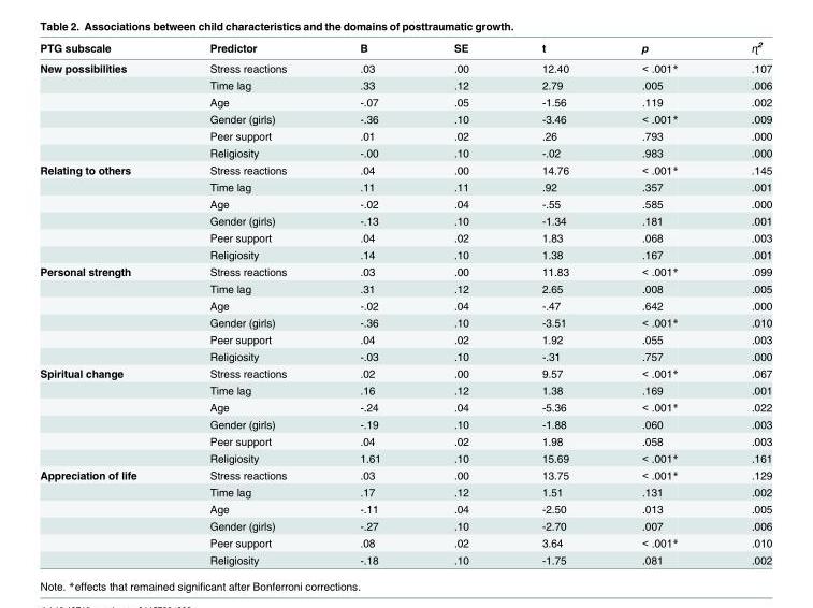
<table><thead><tr><td>PTG subscale</td><td>Predictor</td><td>B</td><td>SE</td><td>t</td><td>p</td><td>ɳ<sup>2</sup></td></tr></thead><tbody><tr><td rowspan="6">New possibilities</td><td>Stress reactions</td><td>.03</td><td>.00</td><td>12.40</td><td>&lt; .001*</td><td>.107</td></tr><tr><td>Time lag</td><td>.33</td><td>.12</td><td>2.79</td><td>.005</td><td>.006</td></tr><tr><td>Age</td><td>-.07</td><td>.05</td><td>-1.56</td><td>.119</td><td>.002</td></tr><tr><td>Gender (girls)</td><td>-.36</td><td>.10</td><td>-3.46</td><td>&lt; .001*</td><td>.009</td></tr><tr><td>Peer support</td><td>.01</td><td>.02</td><td>.26</td><td>.793</td><td>.000</td></tr><tr><td>Religiosity</td><td>-.00</td><td>.10</td><td>-.02</td><td>.983</td><td>.000</td></tr><tr><td rowspan="6">Relating to others</td><td>Stress reactions</td><td>.04</td><td>.00</td><td>14.76</td><td>&lt; .001*</td><td>.145</td></tr><tr><td>Time lag</td><td>.11</td><td>.11</td><td>.92</td><td>.357</td><td>.001</td></tr><tr><td>Age</td><td>-.02</td><td>.04</td><td>-.55</td><td>.585</td><td>.000</td></tr><tr><td>Gender (girls)</td><td>-.13</td><td>.10</td><td>-1.34</td><td>.181</td><td>.001</td></tr><tr><td>Peer support</td><td>.04</td><td>.02</td><td>1.83</td><td>.068</td><td>.003</td></tr><tr><td>Religiosity</td><td>.14</td><td>.10</td><td>1.38</td><td>.167</td><td>.001</td></tr><tr><td rowspan="6">Personal strength</td><td>Stress reactions</td><td>.03</td><td>.00</td><td>11.83</td><td>&lt; .001*</td><td>.099</td></tr><tr><td>Time lag</td><td>.31</td><td>.12</td><td>2.65</td><td>.008</td><td>.005</td></tr><tr><td>Age</td><td>-.02</td><td>.04</td><td>-.47</td><td>.642</td><td>.000</td></tr><tr><td>Gender (girls)</td><td>-.36</td><td>.10</td><td>-3.51</td><td>&lt; .001*</td><td>.010</td></tr><tr><td>Peer support</td><td>.04</td><td>.02</td><td>1.92</td><td>.055</td><td>.003</td></tr><tr><td>Religiosity</td><td>-.03</td><td>.10</td><td>-.31</td><td>.757</td><td>.000</td></tr><tr><td rowspan="6">Spiritual change</td><td>Stress reactions</td><td>.02</td><td>.00</td><td>9.57</td><td>&lt; .001*</td><td>.067</td></tr><tr><td>Time lag</td><td>.16</td><td>.12</td><td>1.38</td><td>.169</td><td>.001</td></tr><tr><td>Age</td><td>-.24</td><td>.04</td><td>-5.36</td><td>&lt; .001*</td><td>.022</td></tr><tr><td>Gender (girls)</td><td>-.19</td><td>.10</td><td>-1.88</td><td>.060</td><td>.003</td></tr><tr><td>Peer support</td><td>.04</td><td>.02</td><td>1.98</td><td>.058</td><td>.003</td></tr><tr><td>Religiosity</td><td>1.61</td><td>.10</td><td>15.69</td><td>&lt; .001*</td><td>.161</td></tr><tr><td rowspan="6">Appreciation of life</td><td>Stress reactions</td><td>.03</td><td>.00</td><td>13.75</td><td>&lt; .001*</td><td>.129</td></tr><tr><td>Time lag</td><td>.17</td><td>.12</td><td>1.51</td><td>.131</td><td>.002</td></tr><tr><td>Age</td><td>-.11</td><td>.04</td><td>-2.50</td><td>.013</td><td>.005</td></tr><tr><td>Gender (girls)</td><td>-.27</td><td>.10</td><td>-2.70</td><td>.007</td><td>.006</td></tr><tr><td>Peer support</td><td>.08</td><td>.02</td><td>3.64</td><td>&lt; .001*</td><td>.010</td></tr><tr><td>Religiosity</td><td>-.18</td><td>.10</td><td>-1.75</td><td>.081</td><td>.002</td></tr></tbody></table>